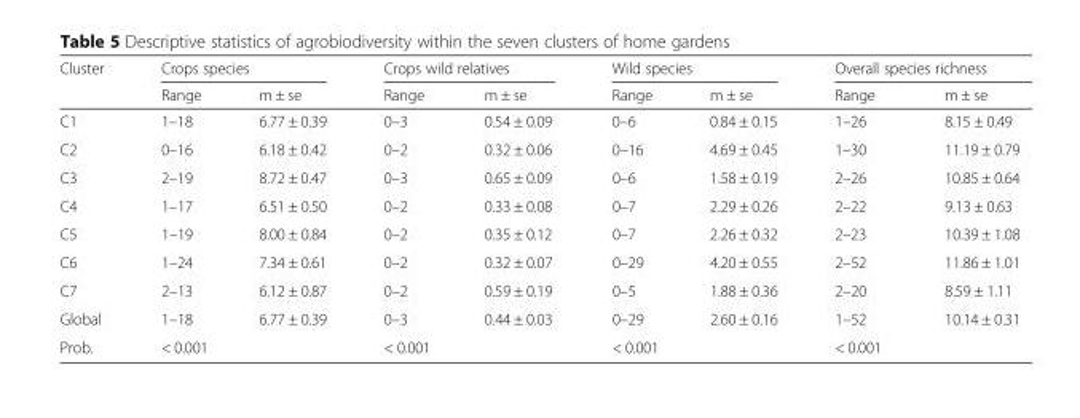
<table><thead><tr><td rowspan="2">Cluster</td><td colspan="2">Crops species</td><td colspan="2">Crops wild relatives</td><td colspan="2">Wild species</td><td colspan="2">Overall species richness</td></tr><tr><td>Range</td><td>m ± se</td><td>Range</td><td>m ± se</td><td>Range</td><td>m ± se</td><td>Range</td><td>m ± se</td></tr></thead><tbody><tr><td>C1</td><td>1–18</td><td>6.77 ± 0.39</td><td>0–3</td><td>0.54 ± 0.09</td><td>0–6</td><td>0.84 ± 0.15</td><td>1–26</td><td>8.15 ± 0.49</td></tr><tr><td>C2</td><td>0–16</td><td>6.18 ± 0.42</td><td>0–2</td><td>0.32 ± 0.06</td><td>0–16</td><td>4.69 ± 0.45</td><td>1–30</td><td>11.19 ± 0.79</td></tr><tr><td>C3</td><td>2–19</td><td>8.72 ± 0.47</td><td>0–3</td><td>0.65 ± 0.09</td><td>0–6</td><td>1.58 ± 0.19</td><td>2–26</td><td>10.85 ± 0.64</td></tr><tr><td>C4</td><td>1–17</td><td>6.51 ± 0.50</td><td>0–2</td><td>0.33 ± 0.08</td><td>0–7</td><td>2.29 ± 0.26</td><td>2–22</td><td>9.13 ± 0.63</td></tr><tr><td>C5</td><td>1–19</td><td>8.00 ± 0.84</td><td>0–2</td><td>0.35 ± 0.12</td><td>0–7</td><td>2.26 ± 0.32</td><td>2–23</td><td>10.39 ± 1.08</td></tr><tr><td>C6</td><td>1–24</td><td>7.34 ± 0.61</td><td>0–2</td><td>0.32 ± 0.07</td><td>0–29</td><td>4.20 ± 0.55</td><td>2–52</td><td>11.86 ± 1.01</td></tr><tr><td>C7</td><td>2–13</td><td>6.12 ± 0.87</td><td>0–2</td><td>0.59 ± 0.19</td><td>0–5</td><td>1.88 ± 0.36</td><td>2–20</td><td>8.59 ± 1.11</td></tr><tr><td>Global</td><td>1–18</td><td>6.77 ± 0.39</td><td>0–3</td><td>0.44 ± 0.03</td><td>0–29</td><td>2.60 ± 0.16</td><td>1–52</td><td>10.14 ± 0.31</td></tr><tr><td>Prob.</td><td colspan="2">&lt; 0.001</td><td colspan="2">&lt; 0.001</td><td colspan="2">&lt; 0.001</td><td colspan="2">&lt; 0.001</td></tr></tbody></table>